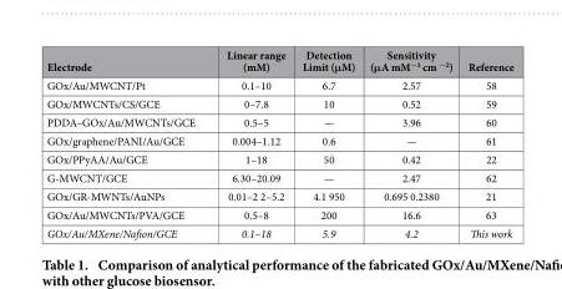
<table><thead><tr><td>Electrode</td><td>Linear range (mM)</td><td>Detection Limit (μM)</td><td>Sensitivity (μA mM<sup>−1</sup> cm <sup>−2</sup>)</td><td>Reference</td></tr></thead><tbody><tr><td>GOx/Au/MWCNT/Pt</td><td>0.1–10</td><td>6.7</td><td>2.57</td><td>58</td></tr><tr><td>GOx/MWCNTs/CS/GCE</td><td>0–7.8</td><td>10</td><td>0.52</td><td>59</td></tr><tr><td>PDDA–GOx/Au/MWCNTs/GCE</td><td>0.5–5</td><td>—</td><td>3.96</td><td>60</td></tr><tr><td>GOx/graphene/PANI/Au/GCE</td><td>0.004–1.12</td><td>0.6</td><td>—</td><td>61</td></tr><tr><td>GOx/PPyAA/Au/GCE</td><td>1–18</td><td>50</td><td>0.42</td><td>22</td></tr><tr><td>G-MWCNT/GCE</td><td>6.30–20.09</td><td>—</td><td>2.47</td><td>62</td></tr><tr><td>GOx/GR-MWNTs/AuNPs</td><td>0.01–2 2–5.2</td><td>4.1 950</td><td>0.695 0.2380</td><td>21</td></tr><tr><td>GOx/Au/MWCNTs/PVA/GCE</td><td>0.5–8</td><td>200</td><td>16.6</td><td>63</td></tr><tr><td>GOx/Au/MXene/Nafion/GCE</td><td>0.1–18</td><td>5.9</td><td>4.2</td><td>This work</td></tr></tbody></table>